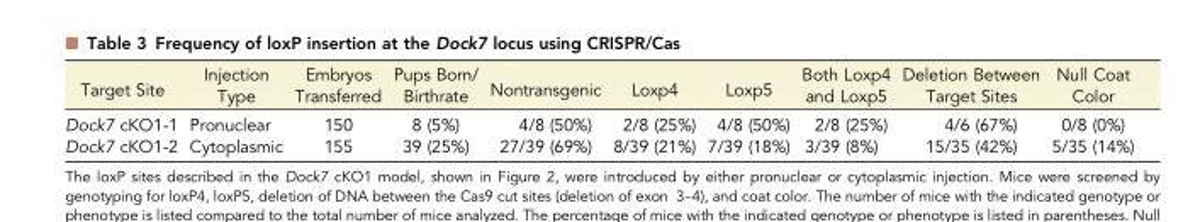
<table><thead><tr><td>Target Site</td><td>Injection Type</td><td>Embryos Transferred</td><td>Pups Born/ Birthrate</td><td>Nontransgenic</td><td>Loxp4</td><td>Loxp5</td><td>Both Loxp4 and Loxp5</td><td>Deletion Between Target Sites</td><td>Null Coat Color</td></tr></thead><tbody><tr><td>Dock7 cKO1-1</td><td>Pronuclear</td><td>150</td><td>8 (5%)</td><td>4/8 (50%)</td><td>2/8 (25%)</td><td>4/8 (50%)</td><td>2/8 (25%)</td><td>4/6 (67%)</td><td>0/8 (0%)</td></tr><tr><td>Dock7 cKO1-2</td><td>Cytoplasmic</td><td>155</td><td>39 (25%)</td><td>27/39 (69%)</td><td>8/39 (21%)</td><td>7/39 (18%)</td><td>3/39 (8%)</td><td>15/35 (42%)</td><td>5/35 (14%)</td></tr></tbody></table>